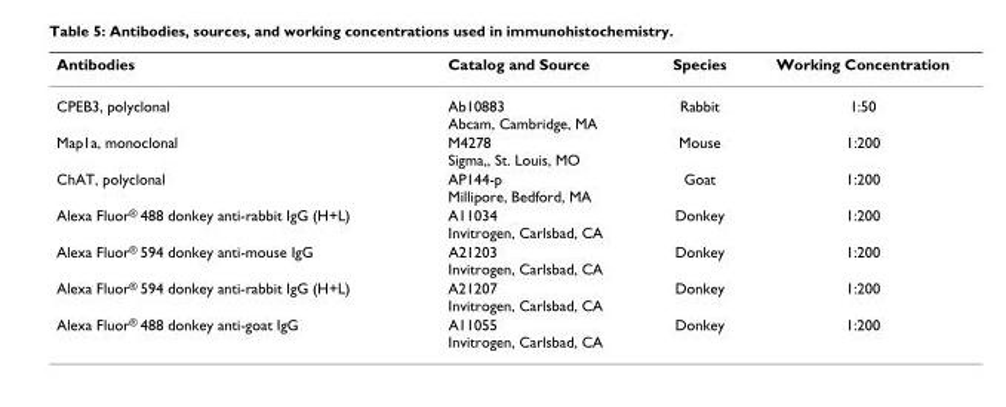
<table><thead><tr><td>Antibodies</td><td>Catalog and Source</td><td>Species</td><td>Working Concentration</td></tr></thead><tbody><tr><td>CPEB3, polyclonal</td><td>Ab10883 Abcam, Cambridge, MA</td><td>Rabbit</td><td>1:50</td></tr><tr><td>Map1a, monoclonal</td><td>M4278 Sigma,, St. Louis, MO</td><td>Mouse</td><td>1:200</td></tr><tr><td>ChAT, polyclonal</td><td>AP144-p Millipore, Bedford, MA</td><td>Goat</td><td>1:200</td></tr><tr><td>Alexa Fluor<sup>®</sup> 488 donkey anti-rabbit IgG (H+L)</td><td>A11034 Invitrogen, Carlsbad, CA</td><td>Donkey</td><td>1:200</td></tr><tr><td>Alexa Fluor<sup>®</sup> 594 donkey anti-mouse IgG</td><td>A21203 Invitrogen, Carlsbad, CA</td><td>Donkey</td><td>1:200</td></tr><tr><td>Alexa Fluor<sup>®</sup> 594 donkey anti-rabbit IgG (H+L)</td><td>A21207 Invitrogen, Carlsbad, CA</td><td>Donkey</td><td>1:200</td></tr><tr><td>Alexa Fluor<sup>®</sup> 488 donkey anti-goat IgG</td><td>A11055 Invitrogen, Carlsbad, CA</td><td>Donkey</td><td>1:200</td></tr></tbody></table>